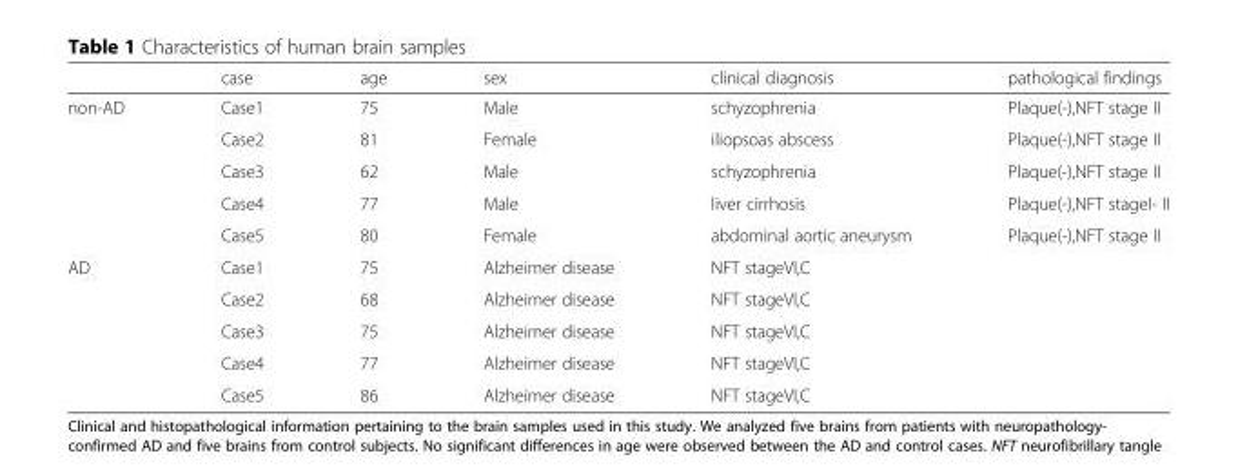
<table><thead><tr><td></td><td>case</td><td>age</td><td>sex</td><td>clinical diagnosis</td><td>pathological findings</td></tr></thead><tbody><tr><td rowspan="5">non-AD</td><td>Case1</td><td>75</td><td>Male</td><td>schyzophrenia</td><td>Plaque(-),NFT stage II</td></tr><tr><td>Case2</td><td>81</td><td>Female</td><td>iliopsoas abscess</td><td>Plaque(-),NFT stage II</td></tr><tr><td>Case3</td><td>62</td><td>Male</td><td>schyzophrenia</td><td>Plaque(-),NFT stage II</td></tr><tr><td>Case4</td><td>77</td><td>Male</td><td>liver cirrhosis</td><td>Plaque(-),NFT stageI- II</td></tr><tr><td>Case5</td><td>80</td><td>Female</td><td>abdominal aortic aneurysm</td><td>Plaque(-),NFT stage II</td></tr><tr><td rowspan="5">AD</td><td>Case1</td><td>75</td><td>Alzheimer disease</td><td>NFT stageVI,C</td><td></td></tr><tr><td>Case2</td><td>68</td><td>Alzheimer disease</td><td>NFT stageVI,C</td><td></td></tr><tr><td>Case3</td><td>75</td><td>Alzheimer disease</td><td>NFT stageVI,C</td><td></td></tr><tr><td>Case4</td><td>77</td><td>Alzheimer disease</td><td>NFT stageVI,C</td><td></td></tr><tr><td>Case5</td><td>86</td><td>Alzheimer disease</td><td>NFT stageVI,C</td><td></td></tr></tbody></table>